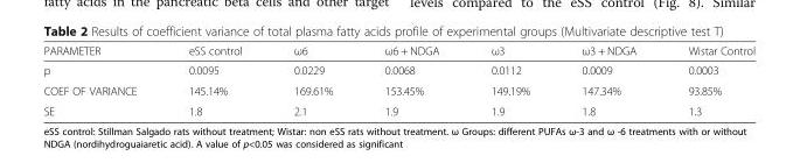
<table><thead><tr><td>PARAMETER</td><td>eSS control</td><td>ω6</td><td>ω6 + NDGA</td><td>ω3</td><td>ω3 + NDGA</td><td>Wistar Control</td></tr></thead><tbody><tr><td>p</td><td>0.0095</td><td>0.0229</td><td>0.0068</td><td>0.0112</td><td>0.0009</td><td>0.0003</td></tr><tr><td>COEF OF VARIANCE</td><td>145.14%</td><td>169.61%</td><td>153.45%</td><td>149.19%</td><td>147.34%</td><td>93.85%</td></tr><tr><td>SE</td><td>1.8</td><td>2.1</td><td>1.9</td><td>1.9</td><td>1.8</td><td>1.3</td></tr></tbody></table>